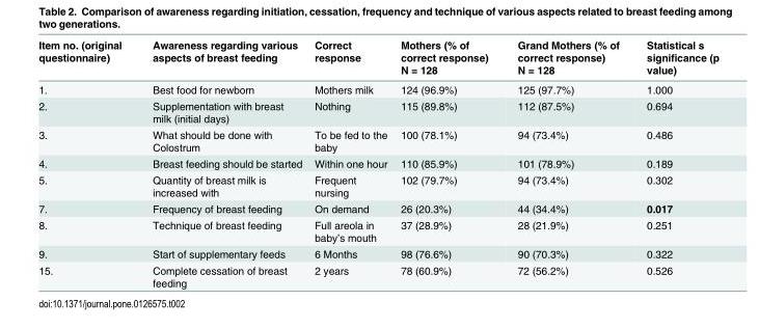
<table><thead><tr><td>Item no. (original questionnaire)</td><td>Awareness regarding various aspects of breast feeding</td><td>Correct response</td><td>Mothers (% of correct response) N = 128</td><td>Grand Mothers (% of correct response) N = 128</td><td>Statistical s significance (p value)</td></tr></thead><tbody><tr><td>1.</td><td>Best food for newborn</td><td>Mothers milk</td><td>124 (96.9%)</td><td>125 (97.7%)</td><td>1.000</td></tr><tr><td>2.</td><td>Supplementation with breast milk (initial days)</td><td>Nothing</td><td>115 (89.8%)</td><td>112 (87.5%)</td><td>0.694</td></tr><tr><td>3.</td><td>What should be done with Colostrum</td><td>To be fed to the baby</td><td>100 (78.1%)</td><td>94 (73.4%)</td><td>0.486</td></tr><tr><td>4.</td><td>Breast feeding should be started</td><td>Within one hour</td><td>110 (85.9%)</td><td>101 (78.9%)</td><td>0.189</td></tr><tr><td>5.</td><td>Quantity of breast milk is increased with</td><td>Frequent nursing</td><td>102 (79.7%)</td><td>94 (73.4%)</td><td>0.302</td></tr><tr><td>7.</td><td>Frequency of breast feeding</td><td>On demand</td><td>26 (20.3%)</td><td>44 (34.4%)</td><td>0.017</td></tr><tr><td>8.</td><td>Technique of breast feeding</td><td>Full areola in baby’s mouth</td><td>37 (28.9%)</td><td>28 (21.9%)</td><td>0.251</td></tr><tr><td>9.</td><td>Start of supplementary feeds</td><td>6 Months</td><td>98 (76.6%)</td><td>90 (70.3%)</td><td>0.322</td></tr><tr><td>15.</td><td>Complete cessation of breast feeding</td><td>2 years</td><td>78 (60.9%)</td><td>72 (56.2%)</td><td>0.526</td></tr></tbody></table>